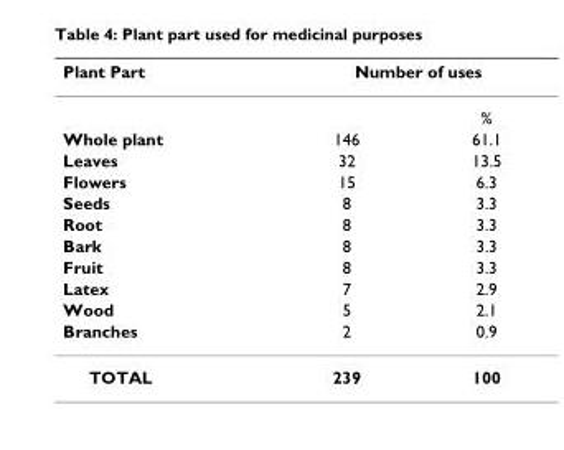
<table><thead><tr><td rowspan="2">Plant Part</td><td colspan="2">Number of uses</td></tr><tr><td></td><td>%</td></tr></thead><tbody><tr><td>Whole plant</td><td>146</td><td>61.1</td></tr><tr><td>Leaves</td><td>32</td><td>13.5</td></tr><tr><td>Flowers</td><td>15</td><td>6.3</td></tr><tr><td>Seeds</td><td>8</td><td>3.3</td></tr><tr><td>Root</td><td>8</td><td>3.3</td></tr><tr><td>Bark</td><td>8</td><td>3.3</td></tr><tr><td>Fruit</td><td>8</td><td>3.3</td></tr><tr><td>Latex</td><td>7</td><td>2.9</td></tr><tr><td>Wood</td><td>5</td><td>2.1</td></tr><tr><td>Branches</td><td>2</td><td>0.9</td></tr><tr><td>TOTAL</td><td>239</td><td>100</td></tr></tbody></table>